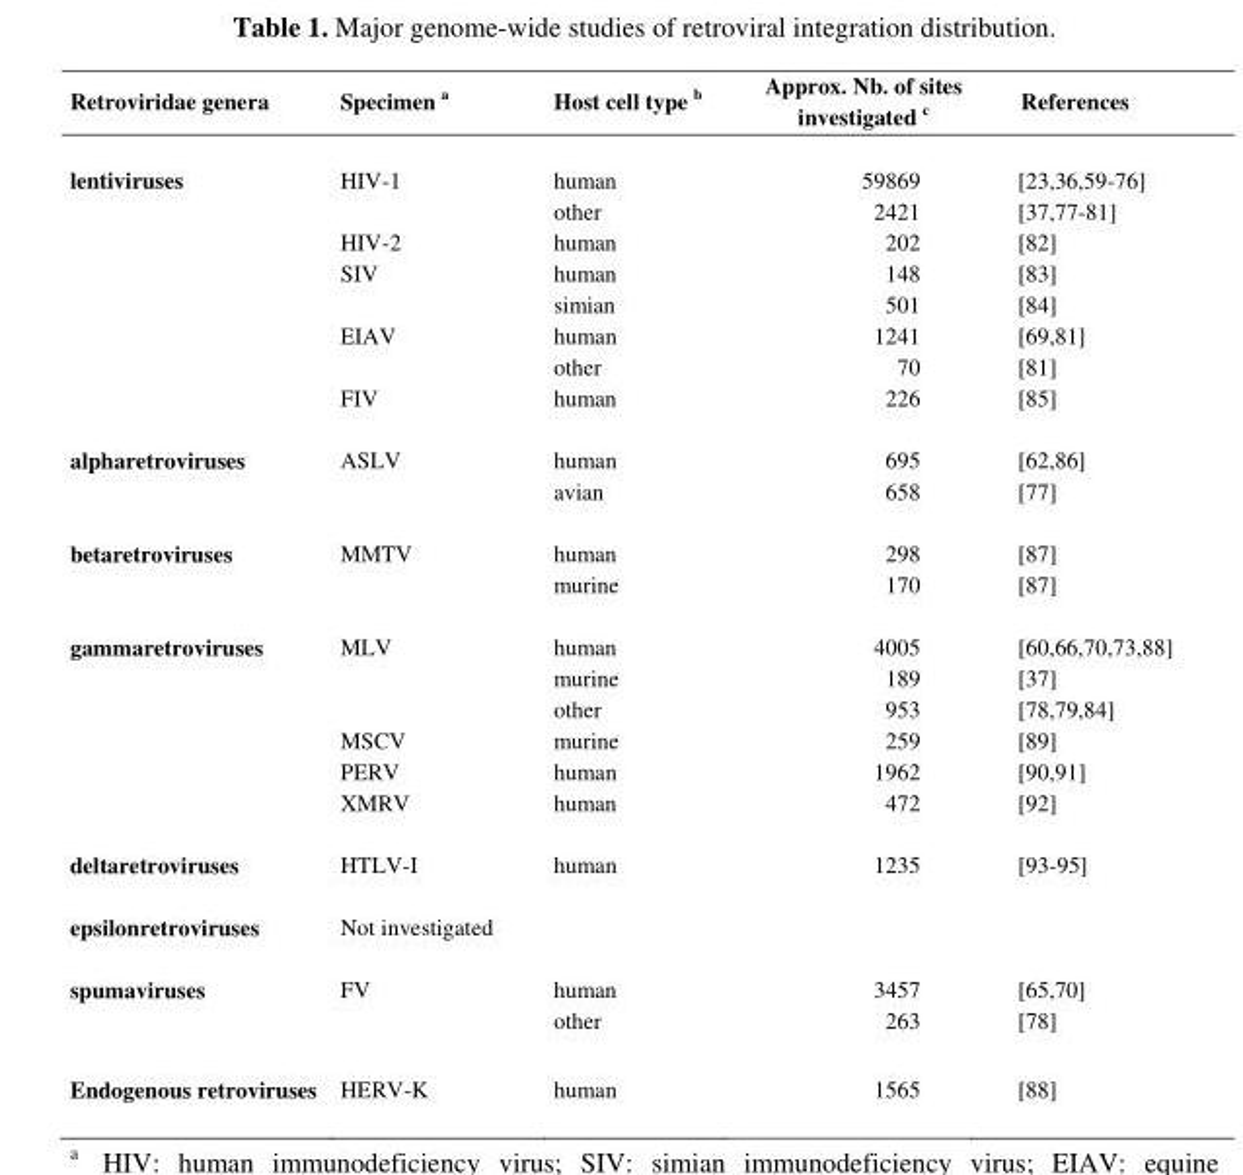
<table><thead><tr><td>Retroviridae genera</td><td>Specimen <sup>a</sup></td><td>Host cell type <sup>b</sup></td><td>Approx. Nb. of sites investigated <sup>c</sup></td><td>References</td></tr></thead><tbody><tr><td rowspan="8">lentiviruses</td><td rowspan="2">HIV-1</td><td>human</td><td>59869</td><td>[23,36,59-76]</td></tr><tr><td>other</td><td>2421</td><td>[37,77-81]</td></tr><tr><td>HIV-2</td><td>human</td><td>202</td><td>[82]</td></tr><tr><td rowspan="2">SIV</td><td>human</td><td>148</td><td>[83]</td></tr><tr><td>simian</td><td>501</td><td>[84]</td></tr><tr><td rowspan="2">EIAV</td><td>human</td><td>1241</td><td>[69,81]</td></tr><tr><td>other</td><td>70</td><td>[81]</td></tr><tr><td>FIV</td><td>human</td><td>226</td><td>[85]</td></tr><tr><td rowspan="2">alpharetroviruses</td><td rowspan="2">ASLV</td><td>human</td><td>695</td><td>[62,86]</td></tr><tr><td>avian</td><td>658</td><td>[77]</td></tr><tr><td rowspan="2">betaretroviruses</td><td rowspan="2">MMTV</td><td>human</td><td>298</td><td>[87]</td></tr><tr><td>murine</td><td>170</td><td>[87]</td></tr><tr><td rowspan="6">gammaretroviruses</td><td rowspan="3">MLV</td><td>human</td><td>4005</td><td>[60,66,70,73,88]</td></tr><tr><td>murine</td><td>189</td><td>[37]</td></tr><tr><td>other</td><td>953</td><td>[78,79,84]</td></tr><tr><td>MSCV</td><td>murine</td><td>259</td><td>[89]</td></tr><tr><td>PERV</td><td>human</td><td>1962</td><td>[90,91]</td></tr><tr><td>XMRV</td><td>human</td><td>472</td><td>[92]</td></tr><tr><td>deltaretroviruses</td><td>HTLV-I</td><td>human</td><td>1235</td><td>[93-95]</td></tr><tr><td>epsilonretroviruses</td><td>Not investigated</td><td></td><td></td><td></td></tr><tr><td rowspan="2">spumaviruses</td><td rowspan="2">FV</td><td>human</td><td>3457</td><td>[65,70]</td></tr><tr><td>other</td><td>263</td><td>[78]</td></tr><tr><td>Endogenous retroviruses</td><td>HERV-K</td><td>human</td><td>1565</td><td>[88]</td></tr></tbody></table>